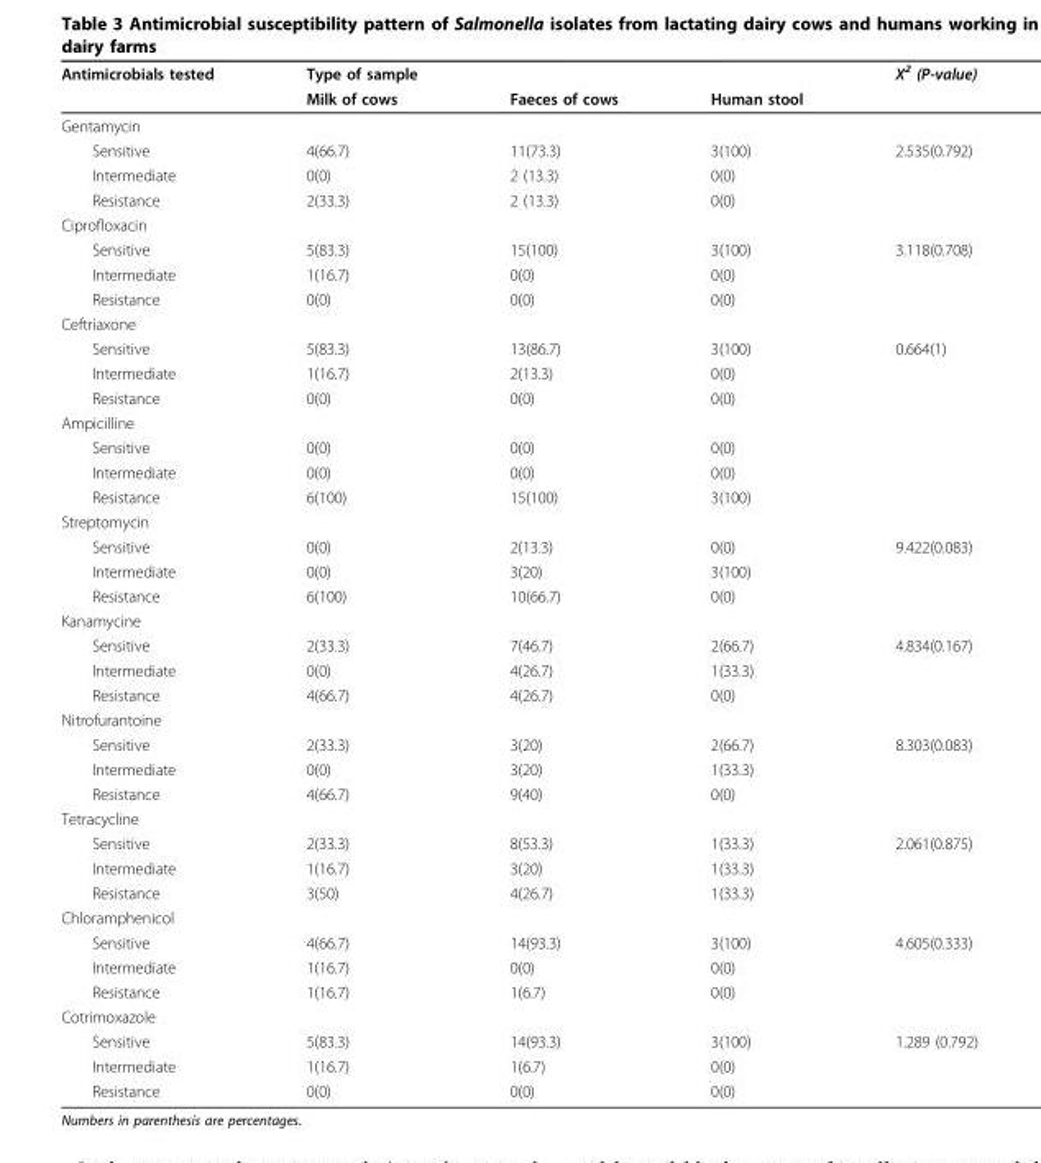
<table><thead><tr><td rowspan="2">Antimicrobials tested</td><td rowspan="2">Type of sample Milk of cows</td><td rowspan="2">Faeces of cows</td><td rowspan="2">Human stool</td><td rowspan="2">X<sup>2</sup> (P-value)</td></tr><tr></tr></thead><tbody><tr><td colspan="5">Gentamycin</td></tr><tr><td>Sensitive</td><td>4(66.7)</td><td>11(73.3)</td><td>3(100)</td><td>2.535(0.792)</td></tr><tr><td>Intermediate</td><td>0(0)</td><td>2 (13.3)</td><td>0(0)</td><td></td></tr><tr><td>Resistance</td><td>2(33.3)</td><td>2 (13.3)</td><td>0(0)</td><td></td></tr><tr><td colspan="5">Ciprofloxacin</td></tr><tr><td>Sensitive</td><td>5(83.3)</td><td>15(100)</td><td>3(100)</td><td>3.118(0.708)</td></tr><tr><td>Intermediate</td><td>1(16.7)</td><td>0(0)</td><td>0(0)</td><td></td></tr><tr><td>Resistance</td><td>0(0)</td><td>0(0)</td><td>0(0)</td><td></td></tr><tr><td colspan="5">Ceftriaxone</td></tr><tr><td>Sensitive</td><td>5(83.3)</td><td>13(86.7)</td><td>3(100)</td><td>0.664(1)</td></tr><tr><td>Intermediate</td><td>1(16.7)</td><td>2(13.3)</td><td>0(0)</td><td></td></tr><tr><td>Resistance</td><td>0(0)</td><td>0(0)</td><td>0(0)</td><td></td></tr><tr><td colspan="5">Ampicilline</td></tr><tr><td>Sensitive</td><td>0(0)</td><td>0(0)</td><td>0(0)</td><td></td></tr><tr><td>Intermediate</td><td>0(0)</td><td>0(0)</td><td>0(0)</td><td></td></tr><tr><td>Resistance</td><td>6(100)</td><td>15(100)</td><td>3(100)</td><td></td></tr><tr><td colspan="5">Streptomycin</td></tr><tr><td>Sensitive</td><td>0(0)</td><td>2(13.3)</td><td>0(0)</td><td>9.422(0.083)</td></tr><tr><td>Intermediate</td><td>0(0)</td><td>3(20)</td><td>3(100)</td><td></td></tr><tr><td>Resistance</td><td>6(100)</td><td>10(66.7)</td><td>0(0)</td><td></td></tr><tr><td colspan="5">Kanamycine</td></tr><tr><td>Sensitive</td><td>2(33.3)</td><td>7(46.7)</td><td>2(66.7)</td><td>4.834(0.167)</td></tr><tr><td>Intermediate</td><td>0(0)</td><td>4(26.7)</td><td>1(33.3)</td><td></td></tr><tr><td>Resistance</td><td>4(66.7)</td><td>4(26.7)</td><td>0(0)</td><td></td></tr><tr><td colspan="5">Nitrofurantoine</td></tr><tr><td>Sensitive</td><td>2(33.3)</td><td>3(20)</td><td>2(66.7)</td><td>8.303(0.083)</td></tr><tr><td>Intermediate</td><td>0(0)</td><td>3(20)</td><td>1(33.3)</td><td></td></tr><tr><td>Resistance</td><td>4(66.7)</td><td>9(40)</td><td>0(0)</td><td></td></tr><tr><td colspan="5">Tetracycline</td></tr><tr><td>Sensitive</td><td>2(33.3)</td><td>8(53.3)</td><td>1(33.3)</td><td>2.061(0.875)</td></tr><tr><td>Intermediate</td><td>1(16.7)</td><td>3(20)</td><td>1(33.3)</td><td></td></tr><tr><td>Resistance</td><td>3(50)</td><td>4(26.7)</td><td>1(33.3)</td><td></td></tr><tr><td colspan="5">Chloramphenicol</td></tr><tr><td>Sensitive</td><td>4(66.7)</td><td>14(93.3)</td><td>3(100)</td><td>4.605(0.333)</td></tr><tr><td>Intermediate</td><td>1(16.7)</td><td>0(0)</td><td>0(0)</td><td></td></tr><tr><td>Resistance</td><td>1(16.7)</td><td>1(6.7)</td><td>0(0)</td><td></td></tr><tr><td colspan="5">Cotrimoxazole</td></tr><tr><td>Sensitive</td><td>5(83.3)</td><td>14(93.3)</td><td>3(100)</td><td>1.289 (0.792)</td></tr><tr><td>Intermediate</td><td>1(16.7)</td><td>1(6.7)</td><td>0(0)</td><td></td></tr><tr><td>Resistance</td><td>0(0)</td><td>0(0)</td><td>0(0)</td><td></td></tr></tbody></table>